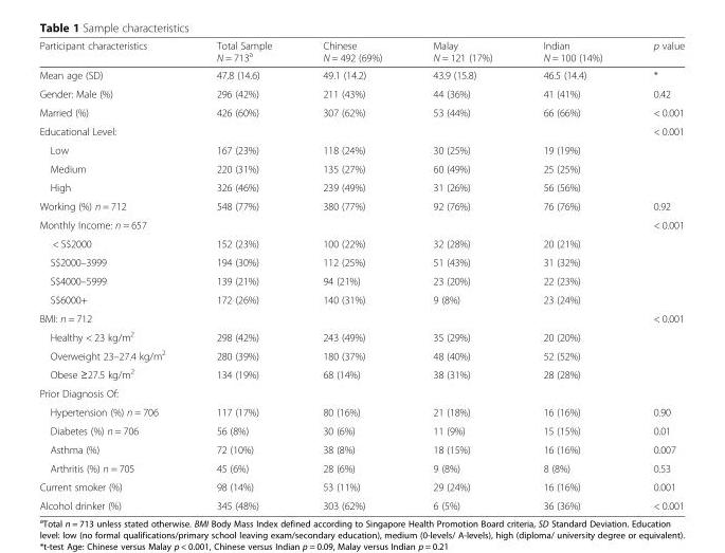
<table><thead><tr><td>Participant characteristics</td><td>Total Sample N = 713<sup>a</sup></td><td>Chinese N = 492 (69%)</td><td>Malay N = 121 (17%)</td><td>Indian N = 100 (14%)</td><td>p value</td></tr></thead><tbody><tr><td>Mean age (SD)</td><td>47.8 (14.6)</td><td>49.1 (14.2)</td><td>43.9 (15.8)</td><td>46.5 (14.4)</td><td>*</td></tr><tr><td>Gender: Male (%)</td><td>296 (42%)</td><td>211 (43%)</td><td>44 (36%)</td><td>41 (41%)</td><td>0.42</td></tr><tr><td>Married (%)</td><td>426 (60%)</td><td>307 (62%)</td><td>53 (44%)</td><td>66 (66%)</td><td>&lt; 0.001</td></tr><tr><td colspan="5">Educational Level:</td><td>&lt; 0.001</td></tr><tr><td>Low</td><td>167 (23%)</td><td>118 (24%)</td><td>30 (25%)</td><td>19 (19%)</td><td></td></tr><tr><td>Medium</td><td>220 (31%)</td><td>135 (27%)</td><td>60 (49%)</td><td>25 (25%)</td><td></td></tr><tr><td>High</td><td>326 (46%)</td><td>239 (49%)</td><td>31 (26%)</td><td>56 (56%)</td><td></td></tr><tr><td>Working (%) n = 712</td><td>548 (77%)</td><td>380 (77%)</td><td>92 (76%)</td><td>76 (76%)</td><td>0.92</td></tr><tr><td colspan="5">Monthly Income: n = 657</td><td>&lt; 0.001</td></tr><tr><td>&lt; S$2000</td><td>152 (23%)</td><td>100 (22%)</td><td>32 (28%)</td><td>20 (21%)</td><td></td></tr><tr><td>S$2000–3999</td><td>194 (30%)</td><td>112 (25%)</td><td>51 (43%)</td><td>31 (32%)</td><td></td></tr><tr><td>S$4000–5999</td><td>139 (21%)</td><td>94 (21%)</td><td>23 (20%)</td><td>22 (23%)</td><td></td></tr><tr><td>S$6000+</td><td>172 (26%)</td><td>140 (31%)</td><td>9 (8%)</td><td>23 (24%)</td><td></td></tr><tr><td colspan="5">BMI: n = 712</td><td>&lt; 0.001</td></tr><tr><td>Healthy &lt; 23 kg/m<sup>2</sup></td><td>298 (42%)</td><td>243 (49%)</td><td>35 (29%)</td><td>20 (20%)</td><td></td></tr><tr><td>Overweight 23–27.4 kg/m<sup>2</sup></td><td>280 (39%)</td><td>180 (37%)</td><td>48 (40%)</td><td>52 (52%)</td><td></td></tr><tr><td>Obese ≥27.5 kg/m<sup>2</sup></td><td>134 (19%)</td><td>68 (14%)</td><td>38 (31%)</td><td>28 (28%)</td><td></td></tr><tr><td colspan="6">Prior Diagnosis Of:</td></tr><tr><td>Hypertension (%) n = 706</td><td>117 (17%)</td><td>80 (16%)</td><td>21 (18%)</td><td>16 (16%)</td><td>0.90</td></tr><tr><td>Diabetes (%) n = 706</td><td>56 (8%)</td><td>30 (6%)</td><td>11 (9%)</td><td>15 (15%)</td><td>0.01</td></tr><tr><td>Asthma (%)</td><td>72 (10%)</td><td>38 (8%)</td><td>18 (15%)</td><td>16 (16%)</td><td>0.007</td></tr><tr><td>Arthritis (%) n = 705</td><td>45 (6%)</td><td>28 (6%)</td><td>9 (8%)</td><td>8 (8%)</td><td>0.53</td></tr><tr><td>Current smoker (%)</td><td>98 (14%)</td><td>53 (11%)</td><td>29 (24%)</td><td>16 (16%)</td><td>0.001</td></tr><tr><td>Alcohol drinker (%)</td><td>345 (48%)</td><td>303 (62%)</td><td>6 (5%)</td><td>36 (36%)</td><td>&lt; 0.001</td></tr></tbody></table>